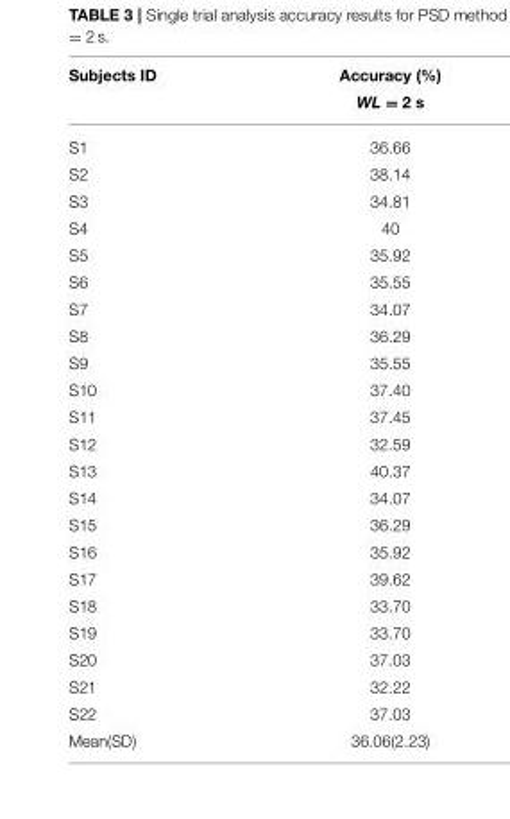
<table><thead><tr><td>Subjects ID</td><td>Accuracy (%) WL = 2 s</td></tr></thead><tbody><tr><td>S1</td><td>36.66</td></tr><tr><td>S2</td><td>38.14</td></tr><tr><td>S3</td><td>34.81</td></tr><tr><td>S4</td><td>40</td></tr><tr><td>S5</td><td>35.92</td></tr><tr><td>S6</td><td>35.55</td></tr><tr><td>S7</td><td>34.07</td></tr><tr><td>S8</td><td>36.29</td></tr><tr><td>S9</td><td>35.55</td></tr><tr><td>S10</td><td>37.40</td></tr><tr><td>S11</td><td>37.45</td></tr><tr><td>S12</td><td>32.59</td></tr><tr><td>S13</td><td>40.37</td></tr><tr><td>S14</td><td>34.07</td></tr><tr><td>S15</td><td>36.29</td></tr><tr><td>S16</td><td>35.92</td></tr><tr><td>S17</td><td>39.62</td></tr><tr><td>S18</td><td>33.70</td></tr><tr><td>S19</td><td>33.70</td></tr><tr><td>S20</td><td>37.03</td></tr><tr><td>S21</td><td>32.22</td></tr><tr><td>S22</td><td>37.03</td></tr><tr><td>Mean(SD)</td><td>36.06(2.23)</td></tr></tbody></table>